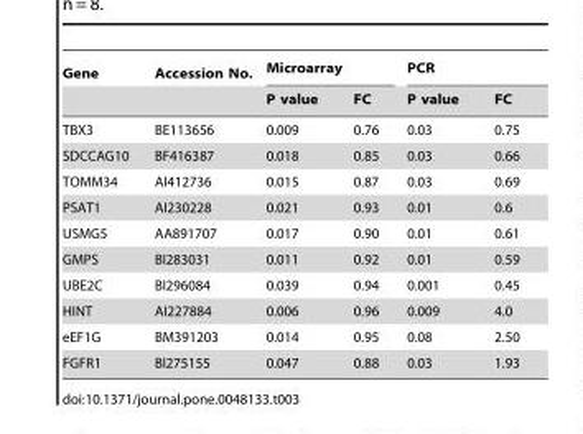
<table><thead><tr><td rowspan="2">Gene</td><td rowspan="2">Accession No.</td><td colspan="2">Microarray</td><td colspan="2">PCR</td></tr><tr><td>P value</td><td>FC</td><td>P value</td><td>FC</td></tr></thead><tbody><tr><td>TBX3</td><td>BE113656</td><td>0.009</td><td>0.76</td><td>0.03</td><td>0.75</td></tr><tr><td>SDCCAG10</td><td>BF416387</td><td>0.018</td><td>0.85</td><td>0.03</td><td>0.66</td></tr><tr><td>TOMM34</td><td>AI412736</td><td>0.015</td><td>0.87</td><td>0.03</td><td>0.69</td></tr><tr><td>PSAT1</td><td>AI230228</td><td>0.021</td><td>0.93</td><td>0.01</td><td>0.6</td></tr><tr><td>USMG5</td><td>AA891707</td><td>0.017</td><td>0.90</td><td>0.01</td><td>0.61</td></tr><tr><td>GMPS</td><td>BI283031</td><td>0.011</td><td>0.92</td><td>0.01</td><td>0.59</td></tr><tr><td>UBE2C</td><td>BI296084</td><td>0.039</td><td>0.94</td><td>0.001</td><td>0.45</td></tr><tr><td>HINT</td><td>AI227884</td><td>0.006</td><td>0.96</td><td>0.009</td><td>4.0</td></tr><tr><td>eEF1G</td><td>BM391203</td><td>0.014</td><td>0.95</td><td>0.08</td><td>2.50</td></tr><tr><td>FGFR1</td><td>BI275155</td><td>0.047</td><td>0.88</td><td>0.03</td><td>1.93</td></tr></tbody></table>